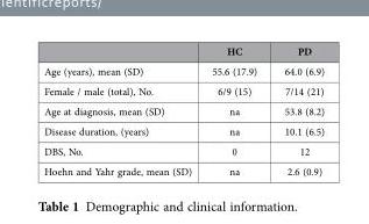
<table><thead><tr><td></td><td>HC</td><td>PD</td></tr></thead><tbody><tr><td>Age (years), mean (SD)</td><td>55.6 (17.9)</td><td>64.0 (6.9)</td></tr><tr><td>Female / male (total), No.</td><td>6/9 (15)</td><td>7/14 (21)</td></tr><tr><td>Age at diagnosis, mean (SD)</td><td>na</td><td>53.8 (8.2)</td></tr><tr><td>Disease duration, (years)</td><td>na</td><td>10.1 (6.5)</td></tr><tr><td>DBS, No.</td><td>0</td><td>12</td></tr><tr><td>Hoehn and Yahr grade, mean (SD)</td><td>na</td><td>2.6 (0.9)</td></tr></tbody></table>